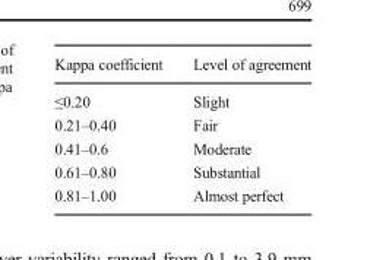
<table><thead><tr><td>Kappa coefficient</td><td>Level of agreement</td></tr></thead><tbody><tr><td>≤0.20</td><td>Slight</td></tr><tr><td>0.21–0.40</td><td>Fair</td></tr><tr><td>0.41–0.6</td><td>Moderate</td></tr><tr><td>0.61–0.80</td><td>Substantial</td></tr><tr><td>0.81–1.00</td><td>Almost perfect</td></tr></tbody></table>